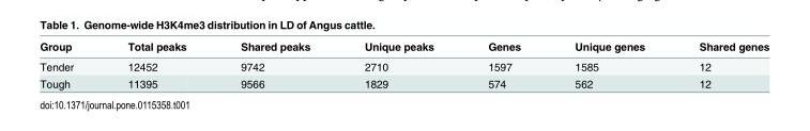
<table><thead><tr><td>Group</td><td>Total peaks</td><td>Shared peaks</td><td>Unique peaks</td><td>Genes</td><td>Unique genes</td><td>Shared genes</td></tr></thead><tbody><tr><td>Tender</td><td>12452</td><td>9742</td><td>2710</td><td>1597</td><td>1585</td><td>12</td></tr><tr><td>Tough</td><td>11395</td><td>9566</td><td>1829</td><td>574</td><td>562</td><td>12</td></tr></tbody></table>